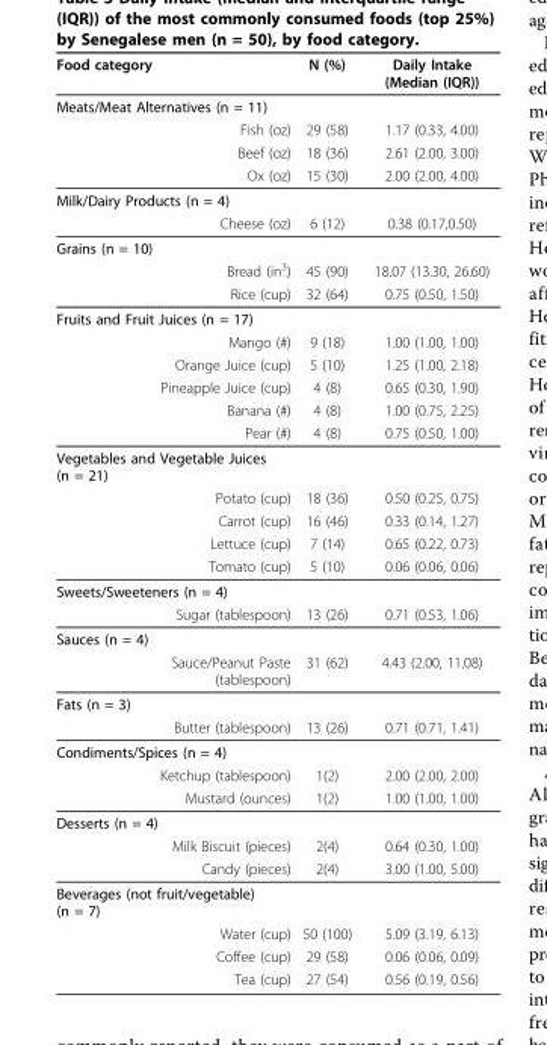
<table><thead><tr><td>Food category</td><td>N (%)</td><td>Daily Intake (Median (IQR))</td></tr></thead><tbody><tr><td colspan="3">Meats/Meat Alternatives (n = 11)</td></tr><tr><td>Fish (oz)</td><td>29 (58)</td><td>1.17 (0.33, 4.00)</td></tr><tr><td>Beef (oz)</td><td>18 (36)</td><td>2.61 (2.00, 3.00)</td></tr><tr><td>Ox (oz)</td><td>15 (30)</td><td>2.00 (2.00, 4.00)</td></tr><tr><td colspan="3">Milk/Dairy Products (n = 4)</td></tr><tr><td>Cheese (oz)</td><td>6 (12)</td><td>0.38 (0.17,0.50)</td></tr><tr><td colspan="3">Grains (n = 10)</td></tr><tr><td>Bread (in<sup>3</sup>)</td><td>45 (90)</td><td>18.07 (13.30, 26.60)</td></tr><tr><td>Rice (cup)</td><td>32 (64)</td><td>0.75 (0.50, 1.50)</td></tr><tr><td colspan="3">Fruits and Fruit Juices (n = 17)</td></tr><tr><td>Mango (#)</td><td>9 (18)</td><td>1.00 (1.00, 1.00)</td></tr><tr><td>Orange Juice (cup)</td><td>5 (10)</td><td>1.25 (1.00, 2.18)</td></tr><tr><td>Pineapple Juice (cup)</td><td>4 (8)</td><td>0.65 (0.30, 1.90)</td></tr><tr><td>Banana (#)</td><td>4 (8)</td><td>1.00 (0.75, 2.25)</td></tr><tr><td>Pear (#)</td><td>4 (8)</td><td>0.75 (0.50, 1.00)</td></tr><tr><td colspan="3">Vegetables and Vegetable Juices (n = 21)</td></tr><tr><td>Potato (cup)</td><td>18 (36)</td><td>0.50 (0.25, 0.75)</td></tr><tr><td>Carrot (cup)</td><td>16 (46)</td><td>0.33 (0.14, 1.27)</td></tr><tr><td>Lettuce (cup)</td><td>7 (14)</td><td>0.65 (0.22, 0.73)</td></tr><tr><td>Tomato (cup)</td><td>5 (10)</td><td>0.06 (0.06, 0.06)</td></tr><tr><td colspan="3">Sweets/Sweeteners (n = 4)</td></tr><tr><td>Sugar (tablespoon)</td><td>13 (26)</td><td>0.71 (0.53, 1.06)</td></tr><tr><td colspan="3">Sauces (n = 4)</td></tr><tr><td>Sauce/Peanut Paste (tablespoon)</td><td>31 (62)</td><td>4.43 (2.00, 11.08)</td></tr><tr><td colspan="3">Fats (n = 3)</td></tr><tr><td>Butter (tablespoon)</td><td>13 (26)</td><td>0.71 (0.71, 1.41)</td></tr><tr><td colspan="3">Condiments/Spices (n = 4)</td></tr><tr><td>Ketchup (tablespoon)</td><td>1(2)</td><td>2.00 (2.00, 2.00)</td></tr><tr><td>Mustard (ounces)</td><td>1(2)</td><td>1.00 (1.00, 1.00)</td></tr><tr><td colspan="3">Desserts (n = 4)</td></tr><tr><td>Milk Biscuit (pieces)</td><td>2(4)</td><td>0.64 (0.30, 1.00)</td></tr><tr><td>Candy (pieces)</td><td>2(4)</td><td>3.00 (1.00, 5.00)</td></tr><tr><td colspan="3">Beverages (not fruit/vegetable) (n = 7)</td></tr><tr><td>Water (cup)</td><td>50 (100)</td><td>5.09 (3.19, 6.13)</td></tr><tr><td>Coffee (cup)</td><td>29 (58)</td><td>0.06 (0.06, 0.09)</td></tr><tr><td>Tea (cup)</td><td>27 (54)</td><td>0.56 (0.19, 0.56)</td></tr></tbody></table>